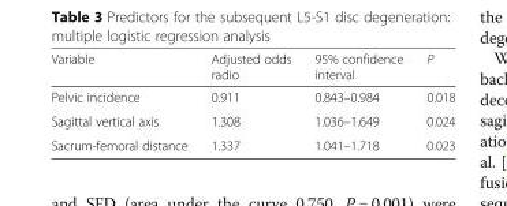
<table><thead><tr><td>Variable</td><td>Adjusted odds radio</td><td>95% confidence interval</td><td>P</td></tr></thead><tbody><tr><td>Pelvic incidence</td><td>0.911</td><td>0.843–0.984</td><td>0.018</td></tr><tr><td>Sagittal vertical axis</td><td>1.308</td><td>1.036–1.649</td><td>0.024</td></tr><tr><td>Sacrum-femoral distance</td><td>1.337</td><td>1.041–1.718</td><td>0.023</td></tr></tbody></table>